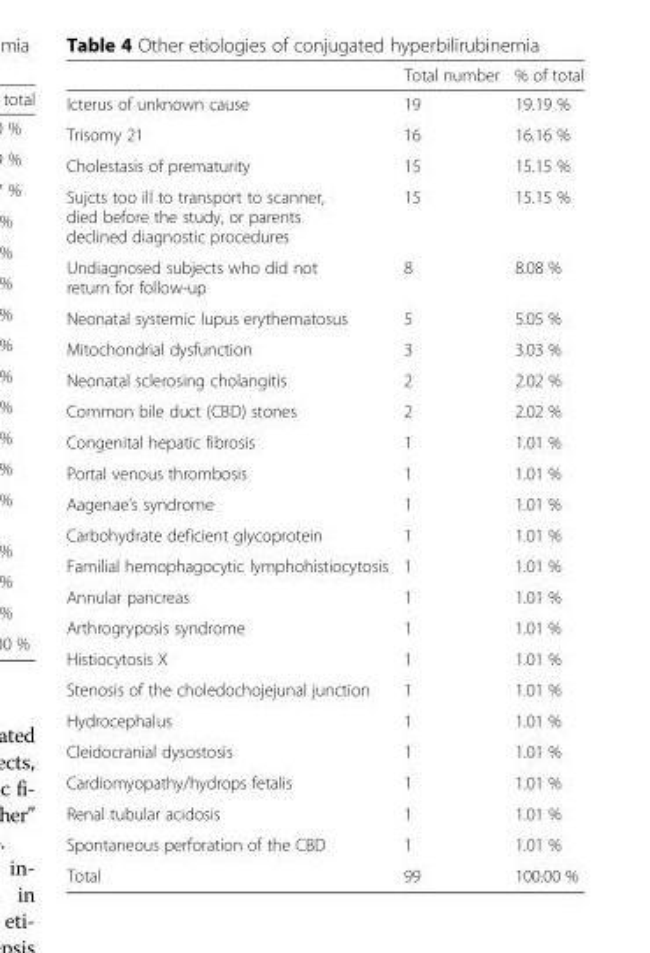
<table><thead><tr><td></td><td>Total number</td><td>% of total</td></tr></thead><tbody><tr><td>Icterus of unknown cause</td><td>19</td><td>19.19 %</td></tr><tr><td>Trisomy 21</td><td>16</td><td>16.16 %</td></tr><tr><td>Cholestasis of prematurity</td><td>15</td><td>15.15 %</td></tr><tr><td>Sujcts too ill to transport to scanner, died before the study, or parents declined diagnostic procedures</td><td>15</td><td>15.15 %</td></tr><tr><td>Undiagnosed subjects who did not return for follow-up</td><td>8</td><td>8.08 %</td></tr><tr><td>Neonatal systemic lupus erythematosus</td><td>5</td><td>5.05 %</td></tr><tr><td>Mitochondrial dysfunction</td><td>3</td><td>3.03 %</td></tr><tr><td>Neonatal sclerosing cholangitis</td><td>2</td><td>2.02 %</td></tr><tr><td>Common bile duct (CBD) stones</td><td>2</td><td>2.02 %</td></tr><tr><td>Congenital hepatic fibrosis</td><td>1</td><td>1.01 %</td></tr><tr><td>Portal venous thrombosis</td><td>1</td><td>1.01 %</td></tr><tr><td>Aagenae’s syndrome</td><td>1</td><td>1.01 %</td></tr><tr><td>Carbohydrate deficient glycoprotein</td><td>1</td><td>1.01 %</td></tr><tr><td>Familial hemophagocytic lymphohistiocytosis</td><td>1</td><td>1.01 %</td></tr><tr><td>Annular pancreas</td><td>1</td><td>1.01 %</td></tr><tr><td>Arthrogryposis syndrome</td><td>1</td><td>1.01 %</td></tr><tr><td>Histiocytosis X</td><td>1</td><td>1.01 %</td></tr><tr><td>Stenosis of the choledochojejunal junction</td><td>1</td><td>1.01 %</td></tr><tr><td>Hydrocephalus</td><td>1</td><td>1.01 %</td></tr><tr><td>Cleidocranial dysostosis</td><td>1</td><td>1.01 %</td></tr><tr><td>Cardiomyopathy/hydrops fetalis</td><td>1</td><td>1.01 %</td></tr><tr><td>Renal tubular acidosis</td><td>1</td><td>1.01 %</td></tr><tr><td>Spontaneous perforation of the CBD</td><td>1</td><td>1.01 %</td></tr><tr><td>Total</td><td>99</td><td>100.00 %</td></tr></tbody></table>